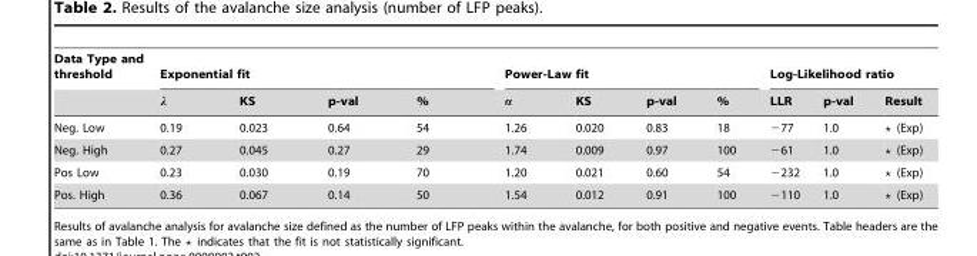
<table><thead><tr><td rowspan="2">Data Type and threshold</td><td colspan="4">Exponential fit</td><td colspan="4">Power-Law fit</td><td colspan="3">Log-Likelihood ratio</td></tr><tr><td>l</td><td>KS</td><td>p-val</td><td>%</td><td>a</td><td>KS</td><td>p-val</td><td>%</td><td>LLR</td><td>p-val</td><td>Result</td></tr></thead><tbody><tr><td>Neg. Low</td><td>0.19</td><td>0.023</td><td>0.64</td><td>54</td><td>1.26</td><td>0.020</td><td>0.83</td><td>18</td><td>−77</td><td>1.0</td><td>? (Exp)</td></tr><tr><td>Neg. High</td><td>0.27</td><td>0.045</td><td>0.27</td><td>29</td><td>1.74</td><td>0.009</td><td>0.97</td><td>100</td><td>−61</td><td>1.0</td><td>? (Exp)</td></tr><tr><td>Pos Low</td><td>0.23</td><td>0.030</td><td>0.19</td><td>70</td><td>1.20</td><td>0.021</td><td>0.60</td><td>54</td><td>−232</td><td>1.0</td><td>? (Exp)</td></tr><tr><td>Pos. High</td><td>0.36</td><td>0.067</td><td>0.14</td><td>50</td><td>1.54</td><td>0.012</td><td>0.91</td><td>100</td><td>−110</td><td>1.0</td><td>? (Exp)</td></tr></tbody></table>